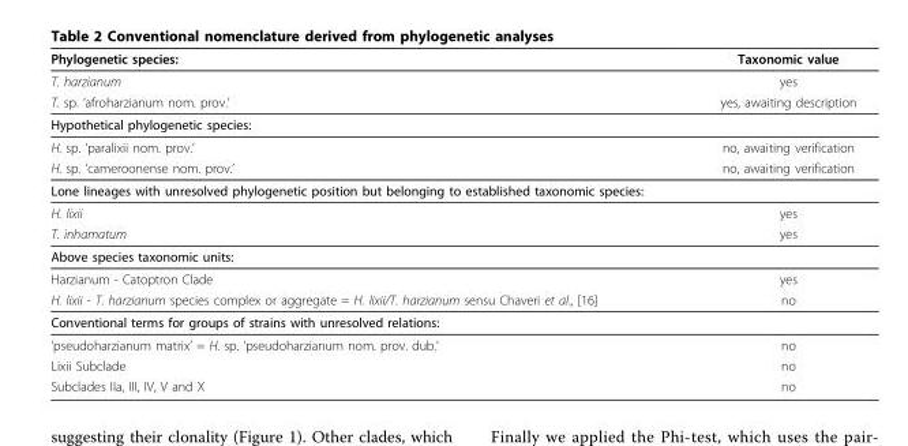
<table><thead><tr><td>Phylogenetic species:</td><td>Taxonomic value</td></tr></thead><tbody><tr><td>T. harzianum</td><td>yes</td></tr><tr><td>T. sp. ‘afroharzianum nom. prov.’</td><td>yes, awaiting description</td></tr><tr><td colspan="2">Hypothetical phylogenetic species:</td></tr><tr><td>H. sp. ‘paralixii nom. prov.’</td><td>no, awaiting verification</td></tr><tr><td>H. sp. ‘cameroonense nom. prov.’</td><td>no, awaiting verification</td></tr><tr><td colspan="2">Lone lineages with unresolved phylogenetic position but belonging to established taxonomic species:</td></tr><tr><td>H. lixii</td><td>yes</td></tr><tr><td>T. inhamatum</td><td>yes</td></tr><tr><td colspan="2">Above species taxonomic units:</td></tr><tr><td>Harzianum - Catoptron Clade</td><td>yes</td></tr><tr><td>H. lixii - T. harzianum species complex or aggregate = H. lixii/T. harzianum sensu Chaveri et al., [16]</td><td>no</td></tr><tr><td colspan="2">Conventional terms for groups of strains with unresolved relations:</td></tr><tr><td>’pseudoharzianum matrix’ = H. sp. ‘pseudoharzianum nom. prov. dub.’</td><td>no</td></tr><tr><td>Lixii Subclade</td><td>no</td></tr><tr><td>Subclades IIa, III, IV, V and X</td><td>no</td></tr></tbody></table>